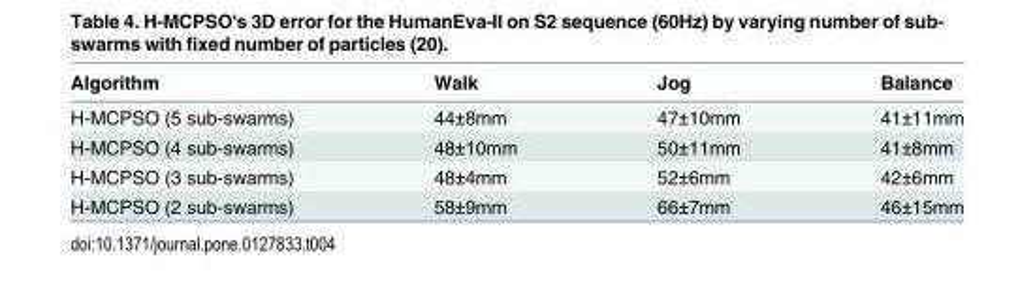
<table><thead><tr><td>Algorithm</td><td>Walk</td><td>Jog</td><td>Balance</td></tr></thead><tbody><tr><td>H-MCPSO (5 sub-swarms)</td><td>44±8mm</td><td>47±10mm</td><td>41±11mm</td></tr><tr><td>H-MCPSO (4 sub-swarms)</td><td>48±10mm</td><td>50±11mm</td><td>41±8mm</td></tr><tr><td>H-MCPSO (3 sub-swarms)</td><td>48±4mm</td><td>52±6mm</td><td>42±6mm</td></tr><tr><td>H-MCPSO (2 sub-swarms)</td><td>58±9mm</td><td>66±7mm</td><td>46±15mm</td></tr></tbody></table>